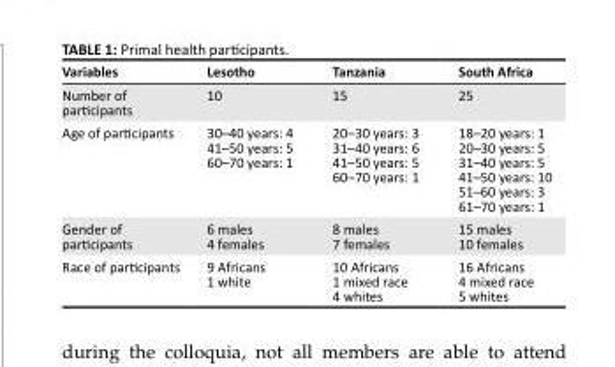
<table><thead><tr><td>Variables</td><td>Lesotho</td><td>Tanzania</td><td>South Africa</td></tr></thead><tbody><tr><td>Number of participants</td><td>10</td><td>15</td><td>25</td></tr><tr><td>Age of participants</td><td>30–40 years: 4 41–50 years: 5 60–70 years: 1</td><td>20–30 years: 3 31–40 years: 6 41–50 years: 5 60–70 years: 1</td><td>18–20 years: 1 20–30 years: 5 31–40 years: 5 41–50 years: 10 51–60 years: 3 61–70 years: 1</td></tr><tr><td>Gender of participants</td><td>6 males 4 females</td><td>8 males 7 females</td><td>15 males 10 females</td></tr><tr><td>Race of participants</td><td>9 Africans 1 white</td><td>10 Africans 1 mixed race 4 whites</td><td>16 Africans 4 mixed race 5 whites</td></tr></tbody></table>